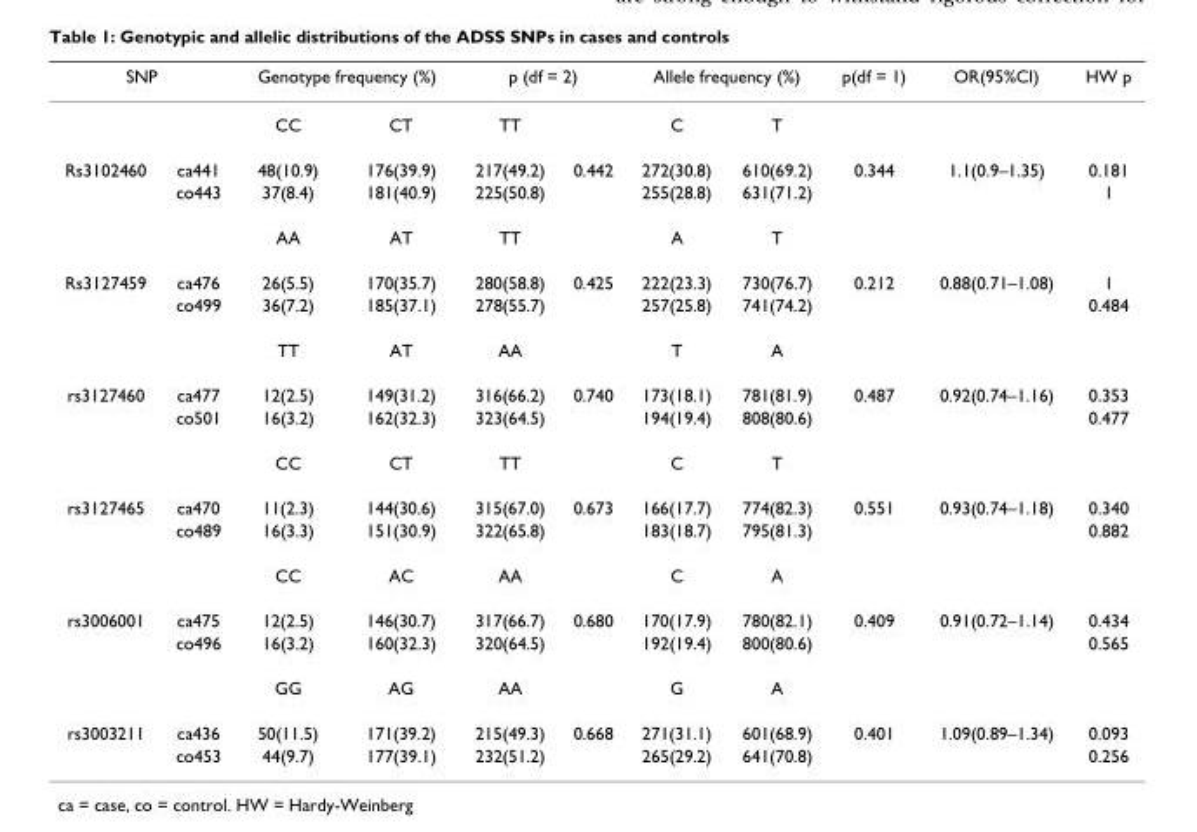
<table><thead><tr><td colspan="2">SNP</td><td colspan="2">Genotype frequency (%)</td><td colspan="2">p (df = 2)</td><td colspan="2">Allele frequency (%)</td><td rowspan="2">p(df = 1)</td><td rowspan="2">OR(95%CI)</td><td rowspan="2">HW p</td></tr><tr><td></td><td></td><td>CC</td><td>CT</td><td>TT</td><td></td><td>C</td><td>T</td></tr></thead><tbody><tr><td rowspan="3">Rs3102460</td><td>ca441</td><td>48(10.9)</td><td>176(39.9)</td><td>217(49.2)</td><td>0.442</td><td>272(30.8)</td><td>610(69.2)</td><td>0.344</td><td>1.1(0.9–1.35)</td><td>0.181</td></tr><tr><td>co443</td><td>37(8.4)</td><td>181(40.9)</td><td>225(50.8)</td><td></td><td>255(28.8)</td><td>631(71.2)</td><td></td><td></td><td>1</td></tr><tr><td></td><td>AA</td><td>AT</td><td>TT</td><td></td><td>A</td><td>T</td><td></td><td></td><td></td></tr><tr><td rowspan="3">Rs3127459</td><td>ca476</td><td>26(5.5)</td><td>170(35.7)</td><td>280(58.8)</td><td>0.425</td><td>222(23.3)</td><td>730(76.7)</td><td>0.212</td><td>0.88(0.71–1.08)</td><td>1</td></tr><tr><td>co499</td><td>36(7.2)</td><td>185(37.1)</td><td>278(55.7)</td><td></td><td>257(25.8)</td><td>741(74.2)</td><td></td><td></td><td>0.484</td></tr><tr><td></td><td>TT</td><td>AT</td><td>AA</td><td></td><td>T</td><td>A</td><td></td><td></td><td></td></tr><tr><td rowspan="3">rs3127460</td><td>ca477</td><td>12(2.5)</td><td>149(31.2)</td><td>316(66.2)</td><td>0.740</td><td>173(18.1)</td><td>781(81.9)</td><td>0.487</td><td>0.92(0.74–1.16)</td><td>0.353</td></tr><tr><td>co501</td><td>16(3.2)</td><td>162(32.3)</td><td>323(64.5)</td><td></td><td>194(19.4)</td><td>808(80.6)</td><td></td><td></td><td>0.477</td></tr><tr><td></td><td>CC</td><td>CT</td><td>TT</td><td></td><td>C</td><td>T</td><td></td><td></td><td></td></tr><tr><td rowspan="3">rs3127465</td><td>ca470</td><td>11(2.3)</td><td>144(30.6)</td><td>315(67.0)</td><td>0.673</td><td>166(17.7)</td><td>774(82.3)</td><td>0.551</td><td>0.93(0.74–1.18)</td><td>0.340</td></tr><tr><td>co489</td><td>16(3.3)</td><td>151(30.9)</td><td>322(65.8)</td><td></td><td>183(18.7)</td><td>795(81.3)</td><td></td><td></td><td>0.882</td></tr><tr><td></td><td>CC</td><td>AC</td><td>AA</td><td></td><td>C</td><td>A</td><td></td><td></td><td></td></tr><tr><td rowspan="3">rs3006001</td><td>ca475</td><td>12(2.5)</td><td>146(30.7)</td><td>317(66.7)</td><td>0.680</td><td>170(17.9)</td><td>780(82.1)</td><td>0.409</td><td>0.91(0.72–1.14)</td><td>0.434</td></tr><tr><td>co496</td><td>16(3.2)</td><td>160(32.3)</td><td>320(64.5)</td><td></td><td>192(19.4)</td><td>800(80.6)</td><td></td><td></td><td>0.565</td></tr><tr><td></td><td>GG</td><td>AG</td><td>AA</td><td></td><td>G</td><td>A</td><td></td><td></td><td></td></tr><tr><td rowspan="2">rs3003211</td><td>ca436</td><td>50(11.5)</td><td>171(39.2)</td><td>215(49.3)</td><td>0.668</td><td>271(31.1)</td><td>601(68.9)</td><td>0.401</td><td>1.09(0.89–1.34)</td><td>0.093</td></tr><tr><td>co453</td><td>44(9.7)</td><td>177(39.1)</td><td>232(51.2)</td><td></td><td>265(29.2)</td><td>641(70.8)</td><td></td><td></td><td>0.256</td></tr></tbody></table>